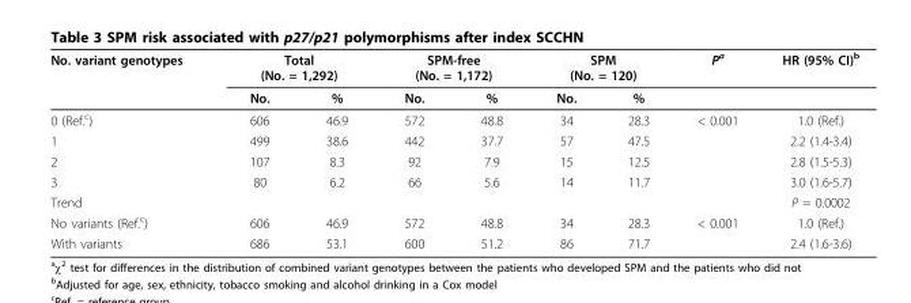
<table><thead><tr><td rowspan="2">No. variant genotypes</td><td colspan="2">Total (No. = 1,292)</td><td colspan="2">SPM-free (No. = 1,172)</td><td colspan="2">SPM (No. = 120)</td><td rowspan="2">P<sup>a</sup></td><td rowspan="2">HR (95% CI)<sup>b</sup></td></tr><tr><td>No.</td><td>%</td><td>No.</td><td>%</td><td>No.</td><td>%</td></tr></thead><tbody><tr><td>0 (Ref.<sup>c</sup>)</td><td>606</td><td>46.9</td><td>572</td><td>48.8</td><td>34</td><td>28.3</td><td>&lt; 0.001</td><td>1.0 (Ref.)</td></tr><tr><td>1</td><td>499</td><td>38.6</td><td>442</td><td>37.7</td><td>57</td><td>47.5</td><td></td><td>2.2 (1.4-3.4)</td></tr><tr><td>2</td><td>107</td><td>8.3</td><td>92</td><td>7.9</td><td>15</td><td>12.5</td><td></td><td>2.8 (1.5-5.3)</td></tr><tr><td>3</td><td>80</td><td>6.2</td><td>66</td><td>5.6</td><td>14</td><td>11.7</td><td></td><td>3.0 (1.6-5.7)</td></tr><tr><td>Trend</td><td></td><td></td><td></td><td></td><td></td><td></td><td></td><td>P = 0.0002</td></tr><tr><td>No variants (Ref.<sup>c</sup>)</td><td>606</td><td>46.9</td><td>572</td><td>48.8</td><td>34</td><td>28.3</td><td>&lt; 0.001</td><td>1.0 (Ref.)</td></tr><tr><td>With variants</td><td>686</td><td>53.1</td><td>600</td><td>51.2</td><td>86</td><td>71.7</td><td></td><td>2.4 (1.6-3.6)</td></tr></tbody></table>